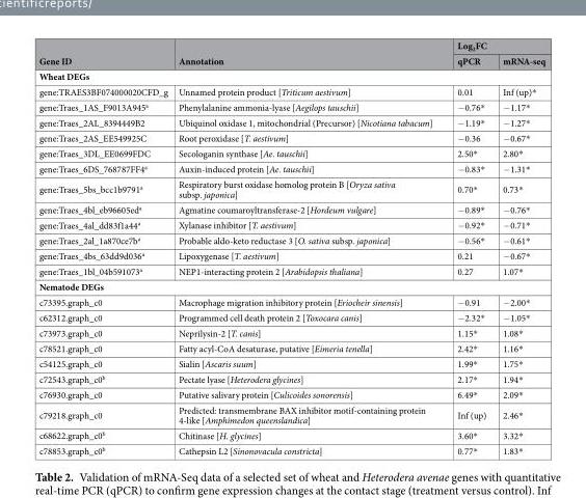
<table><thead><tr><td rowspan="2">Gene ID</td><td rowspan="2">Annotation</td><td colspan="2">Log<sub>2</sub>FC</td></tr><tr><td>qPCR</td><td>mRNA-seq</td></tr></thead><tbody><tr><td colspan="4">Wheat DEGs</td></tr><tr><td>gene:TRAES3BF074000020CFD_g</td><td>Unnamed protein product [Triticum aestivum]</td><td>0.01</td><td>Inf (up)*</td></tr><tr><td>gene:Traes_1AS_F9013A945<sup>a</sup></td><td>Phenylalanine ammonia-lyase [Aegilops tauschii]</td><td>−0.76*</td><td>−1.17*</td></tr><tr><td>gene:Traes_2AL_8394449B2</td><td>Ubiquinol oxidase 1, mitochondrial (Precursor) [Nicotiana tabacum]</td><td>−1.19*</td><td>−1.27*</td></tr><tr><td>gene:Traes_2AS_EE549925C</td><td>Root peroxidase [T. aestivum]</td><td>−0.36</td><td>−0.67*</td></tr><tr><td>gene:Traes_3DL_EE0699FDC</td><td>Secologanin synthase [Ae. tauschii]</td><td>2.50*</td><td>2.80*</td></tr><tr><td>gene:Traes_6DS_768787FF4<sup>a</sup></td><td>Auxin-induced protein [Ae. tauschii]</td><td>−0.83*</td><td>−1.31*</td></tr><tr><td>gene:Traes_5bs_bcc1b9791<sup>a</sup></td><td>Respiratory burst oxidase homolog protein B [Oryza sativa subsp. japonica]</td><td>0.70*</td><td>0.73*</td></tr><tr><td>gene:Traes_4bl_eb96605ed<sup>a</sup></td><td>Agmatine coumaroyltransferase-2 [Hordeum vulgare]</td><td>−0.89*</td><td>−0.76*</td></tr><tr><td>gene:Traes_4al_dd83f1a44<sup>a</sup></td><td>Xylanase inhibitor [T. aestivum]</td><td>−0.92*</td><td>−0.71*</td></tr><tr><td>gene:Traes_2al_1a870ce7b<sup>a</sup></td><td>Probable aldo-keto reductase 3 [O. sativa subsp. japonica]</td><td>−0.56*</td><td>−0.61*</td></tr><tr><td>gene:Traes_4bs_63dd9d036<sup>a</sup></td><td>Lipoxygenase [T. aestivum]</td><td>0.21</td><td>−0.67*</td></tr><tr><td>gene:Traes_1bl_04b591073<sup>a</sup></td><td>NEP1-interacting protein 2 [Arabidopsis thaliana]</td><td>0.27</td><td>1.07*</td></tr><tr><td colspan="4">Nematode DEGs</td></tr><tr><td>c73395.graph_c0</td><td>Macrophage migration inhibitory protein [Eriocheir sinensis]</td><td>−0.91</td><td>−2.00*</td></tr><tr><td>c62312.graph_c0</td><td>Programmed cell death protein 2 [Toxocara canis]</td><td>−2.32*</td><td>−1.05*</td></tr><tr><td>c73973.graph_c0</td><td>Neprilysin-2 [T. canis]</td><td>1.15*</td><td>1.08*</td></tr><tr><td>c78521.graph_c0</td><td>Fatty acyl-CoA desaturase, putative [Eimeria tenella]</td><td>2.42*</td><td>1.16*</td></tr><tr><td>c54125.graph_c0</td><td>Sialin [Ascaris suum]</td><td>1.99*</td><td>1.75*</td></tr><tr><td>c72543.graph_c0<sup>b</sup></td><td>Pectate lyase [Heterodera glycines]</td><td>2.17*</td><td>1.94*</td></tr><tr><td>c76930.graph_c0</td><td>Putative salivary protein [Culicoides sonorensis]</td><td>6.49*</td><td>2.09*</td></tr><tr><td>c79218.graph_c0</td><td>Predicted: transmembrane BAX inhibitor motif-containing protein 4-like [Amphimedon queenslandica]</td><td>Inf (up)</td><td>2.46*</td></tr><tr><td>c68622.graph_c0<sup>b</sup></td><td>Chitinase [H. glycines]</td><td>3.60*</td><td>3.32*</td></tr><tr><td>c78853.graph_c0<sup>b</sup></td><td>Cathepsin L2 [Sinonovacula constricta]</td><td>0.77*</td><td>1.83*</td></tr></tbody></table>